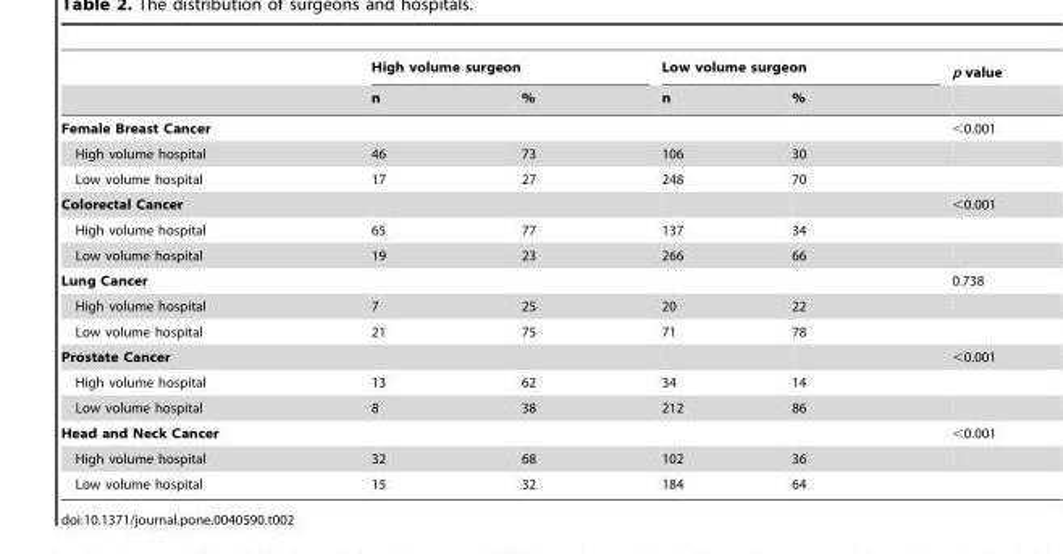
<table><thead><tr><td rowspan="2"></td><td colspan="2">High volume surgeon</td><td colspan="2">Low volume surgeon</td><td rowspan="2">p value</td></tr><tr><td>n</td><td>%</td><td>n</td><td>%</td></tr></thead><tbody><tr><td>Female Breast Cancer</td><td></td><td></td><td></td><td></td><td>&lt;0.001</td></tr><tr><td>High volume hospital</td><td>46</td><td>73</td><td>106</td><td>30</td><td></td></tr><tr><td>Low volume hospital</td><td>17</td><td>27</td><td>248</td><td>70</td><td></td></tr><tr><td>Colorectal Cancer</td><td></td><td></td><td></td><td></td><td>&lt;0.001</td></tr><tr><td>High volume hospital</td><td>65</td><td>77</td><td>137</td><td>34</td><td></td></tr><tr><td>Low volume hospital</td><td>19</td><td>23</td><td>266</td><td>66</td><td></td></tr><tr><td>Lung Cancer</td><td></td><td></td><td></td><td></td><td>0.738</td></tr><tr><td>High volume hospital</td><td>7</td><td>25</td><td>20</td><td>22</td><td></td></tr><tr><td>Low volume hospital</td><td>21</td><td>75</td><td>71</td><td>78</td><td></td></tr><tr><td>Prostate Cancer</td><td></td><td></td><td></td><td></td><td>&lt;0.001</td></tr><tr><td>High volume hospital</td><td>13</td><td>62</td><td>34</td><td>14</td><td></td></tr><tr><td>Low volume hospital</td><td>8</td><td>38</td><td>212</td><td>86</td><td></td></tr><tr><td>Head and Neck Cancer</td><td></td><td></td><td></td><td></td><td>&lt;0.001</td></tr><tr><td>High volume hospital</td><td>32</td><td>68</td><td>102</td><td>36</td><td></td></tr><tr><td>Low volume hospital</td><td>15</td><td>32</td><td>184</td><td>64</td><td></td></tr></tbody></table>